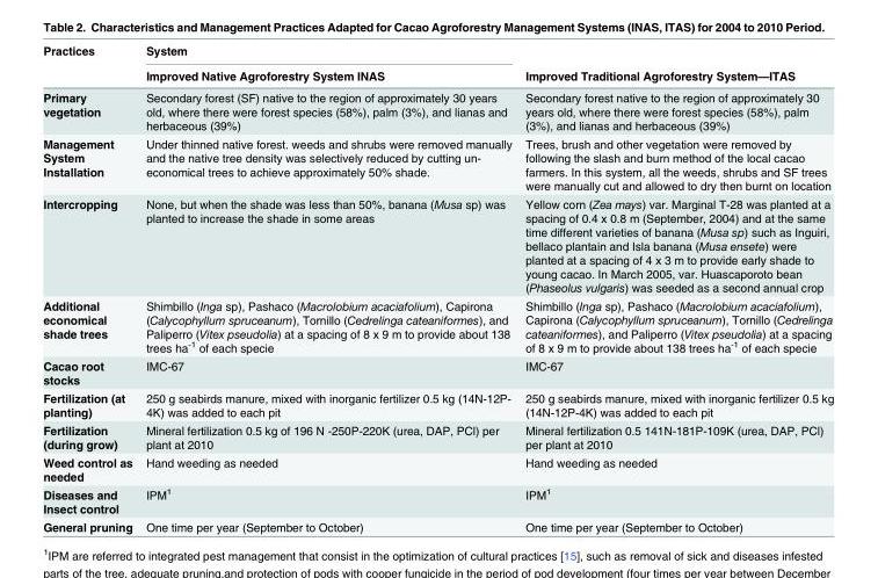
<table><thead><tr><td rowspan="2">Practices</td><td rowspan="2">System Improved Native Agroforestry System INAS</td><td rowspan="2">Improved Traditional Agroforestry System—ITAS</td></tr><tr></tr></thead><tbody><tr><td>Primary vegetation</td><td>Secondary forest (SF) native to the region of approximately 30 years old, where there were forest species (58%), palm (3%), and lianas and herbaceous (39%)</td><td>Secondary forest native to the region of approximately 30 years old, where there were forest species (58%), palm (3%), and lianas and herbaceous (39%)</td></tr><tr><td>Management System Installation</td><td>Under thinned native forest. weeds and shrubs were removed manually and the native tree density was selectively reduced by cutting un- economical trees to achieve approximately 50% shade.</td><td>Trees, brush and other vegetation were removed by following the slash and burn method of the local cacao farmers. In this system, all the weeds, shrubs and SF trees were manually cut and allowed to dry then burnt on location</td></tr><tr><td>Intercropping</td><td>None, but when the shade was less than 50%, banana (Musa sp) was planted to increase the shade in some areas</td><td>Yellow corn (Zea mays) var. Marginal T-28 was planted at a spacing of 0.4 x 0.8 m (September, 2004) and at the same time different varieties of banana (Musa sp) such as Inguiri, bellaco plantain and Isla banana (Musa ensete) were planted at a spacing of 4 x 3 m to provide early shade to young cacao. In March 2005, var. Huascaporoto bean (Phaseolus vulgaris) was seeded as a second annual crop</td></tr><tr><td>Additional economical shade trees</td><td>Shimbillo (Inga sp), Pashaco (Macrolobium acaciafolium), Capirona (Calycophyllum spruceanum), Tornillo (Cedrelinga cateaniformes), and Paliperro (Vitex pseudolia) at a spacing of 8 x 9 m to provide about 138 trees ha<sup>-1</sup> of each specie</td><td>Shimbillo (Inga sp), Pashaco (Macrolobium acaciafolium), Capirona (Calycophyllum spruceanum), Tornillo (Cedrelinga cateaniformes), and Paliperro (Vitex pseudolia) at a spacing of 8 x 9 m to provide about 138 trees ha<sup>-1</sup> of each specie</td></tr><tr><td>Cacao root stocks</td><td>IMC-67</td><td>IMC-67</td></tr><tr><td>Fertilization (at planting)</td><td>250 g seabirds manure, mixed with inorganic fertilizer 0.5 kg (14N-12P- 4K) was added to each pit</td><td>250 g seabirds manure, mixed with inorganic fertilizer 0.5 kg (14N-12P-4K) was added to each pit</td></tr><tr><td>Fertilization (during grow)</td><td>Mineral fertilization 0.5 kg of 196 N -250P-220K (urea, DAP, PCl) per plant at 2010</td><td>Mineral fertilization 0.5 141N-181P-109K (urea, DAP, PCl) per plant at 2010</td></tr><tr><td>Weed control as needed</td><td>Hand weeding as needed</td><td>Hand weeding as needed</td></tr><tr><td>Diseases and Insect control</td><td>IPM<sup>1</sup></td><td>IPM<sup>1</sup></td></tr><tr><td>General pruning</td><td>One time per year (September to October)</td><td>One time per year (September to October)</td></tr></tbody></table>